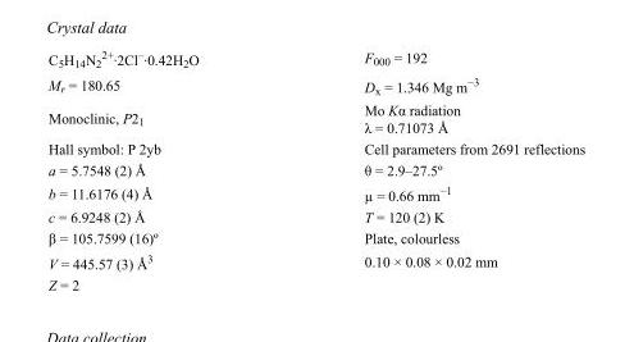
<table><tbody><tr><td>C<sub>5</sub>H<sub>14</sub>N<sub>2</sub> <sup>2+</sup>·2Cl<sup>–</sup>·0.42H<sub>2</sub>O</td><td>F<sub>000</sub> = 192</td></tr><tr><td>M<sub>r</sub> = 180.65</td><td>D<sub>x</sub> = 1.346 Mg m<sup>−3</sup></td></tr><tr><td>Monoclinic, P2<sub>1</sub></td><td>Mo Kα radiation λ = 0.71073 Å</td></tr><tr><td>Hall symbol: P 2yb</td><td>Cell parameters from 2691 reflections</td></tr><tr><td>a = 5.7548 (2) Å</td><td>θ = 2.9–27.5º</td></tr><tr><td>b = 11.6176 (4) Å</td><td>µ = 0.66 mm<sup>−1</sup></td></tr><tr><td>c = 6.9248 (2) Å</td><td>T = 120 (2) K</td></tr><tr><td>β = 105.7599 (16)º</td><td>Plate, colourless</td></tr><tr><td>V = 445.57 (3) Å<sup>3</sup></td><td>0.10 × 0.08 × 0.02 mm</td></tr><tr><td>Z = 2</td><td></td></tr></tbody></table>